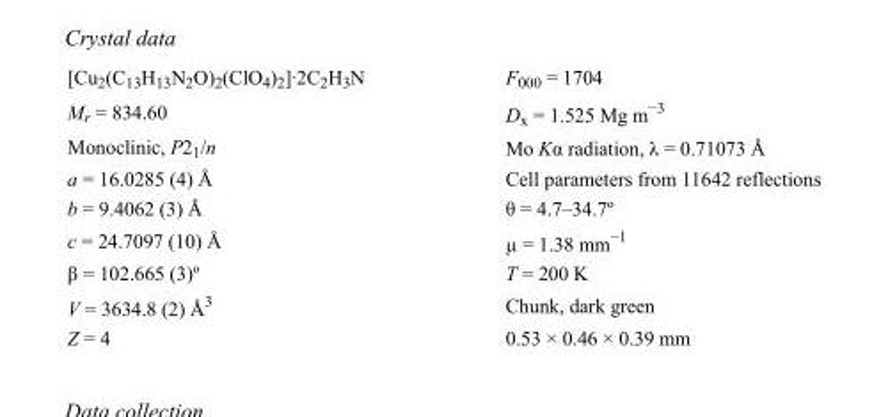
<table><tbody><tr><td>[Cu<sub>2</sub>(C<sub>13</sub>H<sub>13</sub>N<sub>2</sub>O)<sub>2</sub>(ClO<sub>4</sub>)<sub>2</sub>]·2C<sub>2</sub>H<sub>3</sub>N</td><td>F000 = 1704</td></tr><tr><td>M<sub>r</sub> = 834.60</td><td>D<sub>x</sub> = 1.525 Mg m<sup>−3</sup></td></tr><tr><td>Monoclinic, P2<sub>1</sub>/n</td><td>Mo Kα radiation, λ = 0.71073 Å</td></tr><tr><td>a = 16.0285 (4) Å</td><td>Cell parameters from 11642 reflections</td></tr><tr><td>b = 9.4062 (3) Å</td><td>θ = 4.7–34.7º</td></tr><tr><td>c = 24.7097 (10) Å</td><td>µ = 1.38 mm<sup>−1</sup></td></tr><tr><td>β = 102.665 (3)º</td><td>T = 200 K</td></tr><tr><td>V = 3634.8 (2) Å<sup>3</sup></td><td>Chunk, dark green</td></tr><tr><td>Z = 4</td><td>0.53 × 0.46 × 0.39 mm</td></tr></tbody></table>